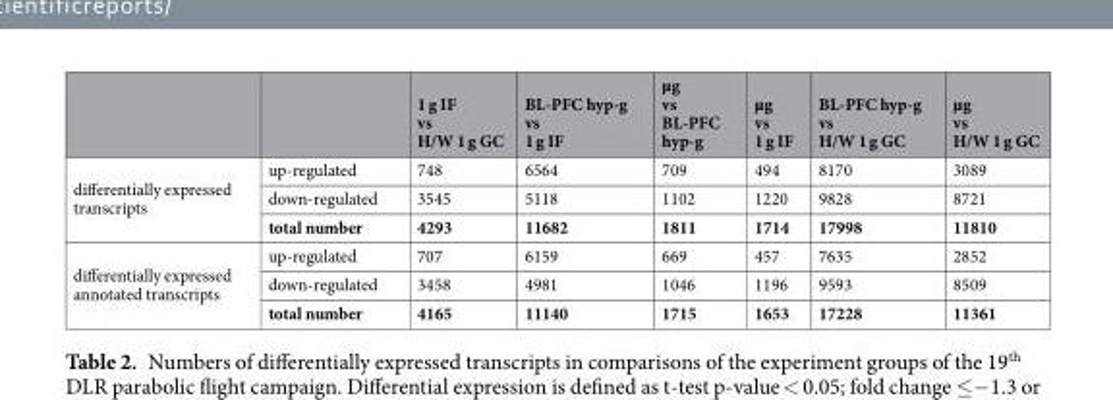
<table><thead><tr><td></td><td></td><td>1 g IF vs H/W 1 g GC</td><td>BL-PFC hyp-g vs 1 g IF</td><td>µg vs BL-PFC hyp-g</td><td>µg vs 1 g IF</td><td>BL-PFC hyp-g vs H/W 1 g GC</td><td>µg vs H/W 1 g GC</td></tr></thead><tbody><tr><td rowspan="3">differentially expressed transcripts</td><td>up-regulated</td><td>748</td><td>6564</td><td>709</td><td>494</td><td>8170</td><td>3089</td></tr><tr><td>down-regulated</td><td>3545</td><td>5118</td><td>1102</td><td>1220</td><td>9828</td><td>8721</td></tr><tr><td>total number</td><td>4293</td><td>11682</td><td>1811</td><td>1714</td><td>17998</td><td>11810</td></tr><tr><td rowspan="3">differentially expressed annotated transcripts</td><td>up-regulated</td><td>707</td><td>6159</td><td>669</td><td>457</td><td>7635</td><td>2852</td></tr><tr><td>down-regulated</td><td>3458</td><td>4981</td><td>1046</td><td>1196</td><td>9593</td><td>8509</td></tr><tr><td>total number</td><td>4165</td><td>11140</td><td>1715</td><td>1653</td><td>17228</td><td>11361</td></tr></tbody></table>